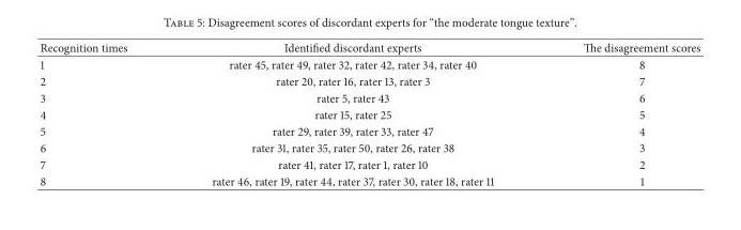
<table><thead><tr><td>Recognition times</td><td>Identified discordant experts</td><td>The disagreement scores</td></tr></thead><tbody><tr><td>1</td><td>rater 45, rater 49, rater 32, rater 42, rater 34, rater 40</td><td>8</td></tr><tr><td>2</td><td>rater 20, rater 16, rater 13, rater 3</td><td>7</td></tr><tr><td>3</td><td>rater 5, rater 43</td><td>6</td></tr><tr><td>4</td><td>rater 15, rater 25</td><td>5</td></tr><tr><td>5</td><td>rater 29, rater 39, rater 33, rater 47</td><td>4</td></tr><tr><td>6</td><td>rater 31, rater 35, rater 50, rater 26, rater 38</td><td>3</td></tr><tr><td>7</td><td>rater 41, rater 17, rater 1, rater 10</td><td>2</td></tr><tr><td>8</td><td>rater 46, rater 19, rater 44, rater 37, rater 30, rater 18, rater 11</td><td>1</td></tr></tbody></table>